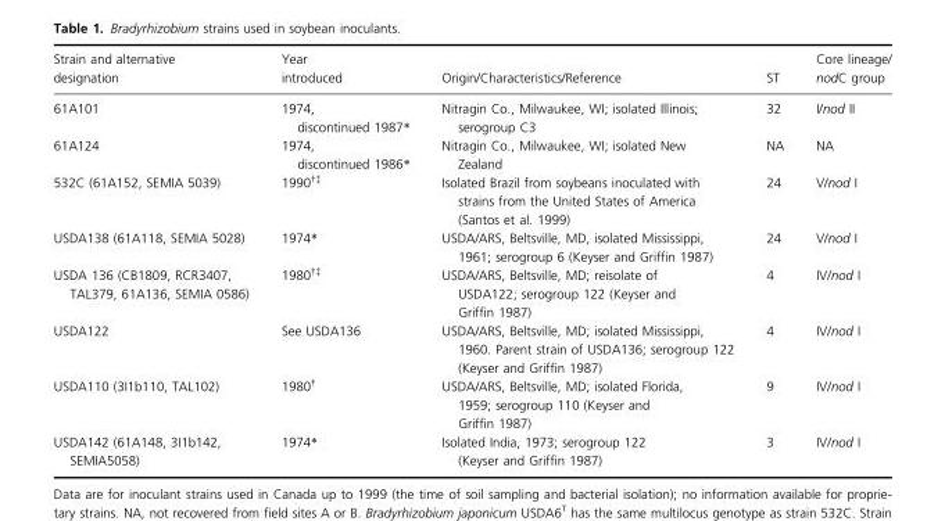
<table><thead><tr><td>Strain and alternative designation</td><td>Year introduced</td><td>Origin/Characteristics/Reference</td><td>ST</td><td>Core lineage/ nodC group</td></tr></thead><tbody><tr><td>61A101</td><td>1974, discontinued 1987*</td><td>Nitragin Co., Milwaukee, WI; isolated Illinois; serogroup C3</td><td>32</td><td>I/nod II</td></tr><tr><td>61A124</td><td>1974, discontinued 1986*</td><td>Nitragin Co., Milwaukee, WI; isolated New Zealand</td><td>NA</td><td>NA</td></tr><tr><td>532C (61A152, SEMIA 5039)</td><td>1990†‡</td><td>Isolated Brazil from soybeans inoculated with strains from the United States of America (Santos et al. 1999)</td><td>24</td><td>V/nod I</td></tr><tr><td>USDA138 (61A118, SEMIA 5028)</td><td>1974*</td><td>USDA/ARS, Beltsville, MD, isolated Mississippi, 1961; serogroup 6 (Keyser and Griffin 1987)</td><td>24</td><td>V/nod I</td></tr><tr><td>USDA 136 (CB1809, RCR3407, TAL379, 61A136, SEMIA 0586)</td><td>1980†‡</td><td>USDA/ARS, Beltsville, MD; reisolate of USDA122; serogroup 122 (Keyser and Griffin 1987)</td><td>4</td><td>IV/nod I</td></tr><tr><td>USDA122</td><td>See USDA136</td><td>USDA/ARS, Beltsville, MD; isolated Mississippi, 1960. Parent strain of USDA136; serogroup 122 (Keyser and Griffin 1987)</td><td>4</td><td>IV/nod I</td></tr><tr><td>USDA110 (3I1b110, TAL102)</td><td>1980†</td><td>USDA/ARS, Beltsville, MD; isolated Florida, 1959; serogroup 110 (Keyser and Griffin 1987)</td><td>9</td><td>IV/nod I</td></tr><tr><td>USDA142 (61A148, 3I1b142, SEMIA5058)</td><td>1974*</td><td>Isolated India, 1973; serogroup 122 (Keyser and Griffin 1987)</td><td>3</td><td>IV/nod I</td></tr></tbody></table>